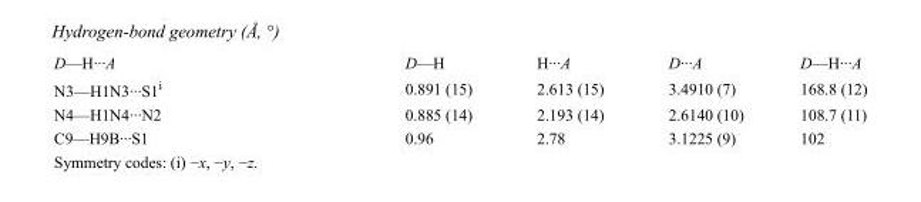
<table><tbody><tr><td>D—H···A</td><td>D—H</td><td>H···A</td><td>D···A</td><td>D—H···A</td></tr><tr><td>N3—H1N3···S1<sup>i</sup></td><td>0.891 (15)</td><td>2.613 (15)</td><td>3.4910 (7)</td><td>168.8 (12)</td></tr><tr><td>N4—H1N4···N2</td><td>0.885 (14)</td><td>2.193 (14)</td><td>2.6140 (10)</td><td>108.7 (11)</td></tr><tr><td>C9—H9B···S1</td><td>0.96</td><td>2.78</td><td>3.1225 (9)</td><td>102</td></tr></tbody></table>